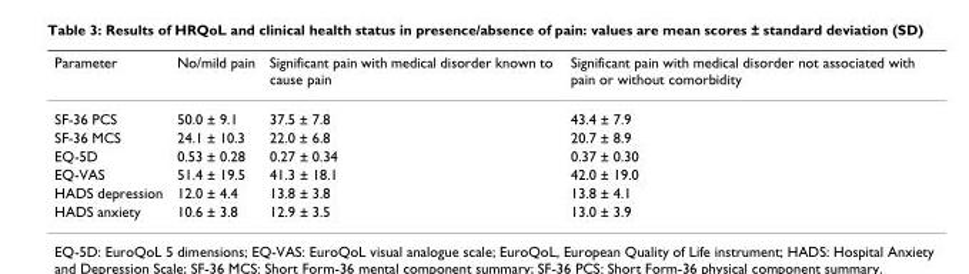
<table><thead><tr><td>Parameter</td><td>No/mild pain</td><td>Significant pain with medical disorder known to cause pain</td><td>Significant pain with medical disorder not associated with pain or without comorbidity</td></tr></thead><tbody><tr><td>SF-36 PCS</td><td>50.0 ± 9.1</td><td>37.5 ± 7.8</td><td>43.4 ± 7.9</td></tr><tr><td>SF-36 MCS</td><td>24.1 ± 10.3</td><td>22.0 ± 6.8</td><td>20.7 ± 8.9</td></tr><tr><td>EQ-5D</td><td>0.53 ± 0.28</td><td>0.27 ± 0.34</td><td>0.37 ± 0.30</td></tr><tr><td>EQ-VAS</td><td>51.4 ± 19.5</td><td>41.3 ± 18.1</td><td>42.0 ± 19.0</td></tr><tr><td>HADS depression</td><td>12.0 ± 4.4</td><td>13.8 ± 3.8</td><td>13.8 ± 4.1</td></tr><tr><td>HADS anxiety</td><td>10.6 ± 3.8</td><td>12.9 ± 3.5</td><td>13.0 ± 3.9</td></tr></tbody></table>